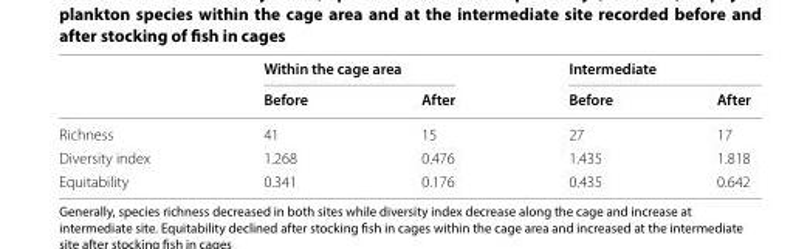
<table><thead><tr><td rowspan="2"></td><td colspan="2">Within the cage area</td><td colspan="2">Intermediate</td></tr><tr><td>Before</td><td>After</td><td>Before</td><td>After</td></tr></thead><tbody><tr><td>Richness</td><td>41</td><td>15</td><td>27</td><td>17</td></tr><tr><td>Diversity index</td><td>1.268</td><td>0.476</td><td>1.435</td><td>1.818</td></tr><tr><td>Equitability</td><td>0.341</td><td>0.176</td><td>0.435</td><td>0.642</td></tr></tbody></table>